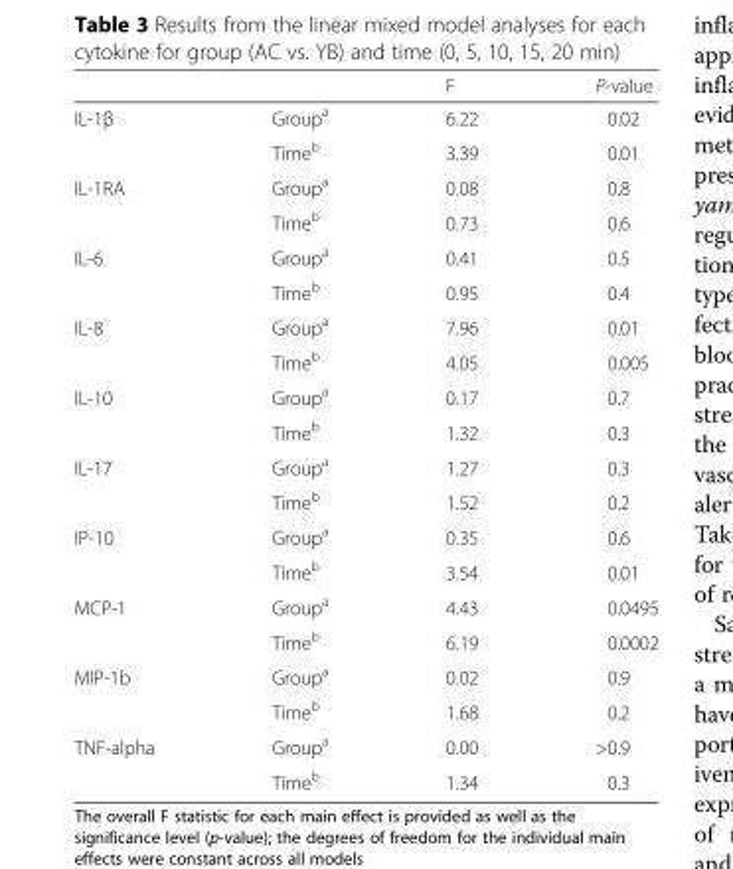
<table><thead><tr><td></td><td></td><td>F</td><td>P-value</td></tr></thead><tbody><tr><td rowspan="2">IL-1β</td><td>Group<sup>a</sup></td><td>6.22</td><td>0.02</td></tr><tr><td>Time<sup>b</sup></td><td>3.39</td><td>0.01</td></tr><tr><td rowspan="2">IL-1RA</td><td>Group<sup>a</sup></td><td>0.08</td><td>0.8</td></tr><tr><td>Time<sup>b</sup></td><td>0.73</td><td>0.6</td></tr><tr><td rowspan="2">IL-6</td><td>Group<sup>a</sup></td><td>0.41</td><td>0.5</td></tr><tr><td>Time<sup>b</sup></td><td>0.95</td><td>0.4</td></tr><tr><td rowspan="2">IL-8</td><td>Group<sup>a</sup></td><td>7.96</td><td>0.01</td></tr><tr><td>Time<sup>b</sup></td><td>4.05</td><td>0.005</td></tr><tr><td rowspan="2">IL-10</td><td>Group<sup>a</sup></td><td>0.17</td><td>0.7</td></tr><tr><td>Time<sup>b</sup></td><td>1.32</td><td>0.3</td></tr><tr><td rowspan="2">IL-17</td><td>Group<sup>a</sup></td><td>1.27</td><td>0.3</td></tr><tr><td>Time<sup>b</sup></td><td>1.52</td><td>0.2</td></tr><tr><td rowspan="2">IP-10</td><td>Group<sup>a</sup></td><td>0.35</td><td>0.6</td></tr><tr><td>Time<sup>b</sup></td><td>3.54</td><td>0.01</td></tr><tr><td rowspan="2">MCP-1</td><td>Group<sup>a</sup></td><td>4.43</td><td>0.0495</td></tr><tr><td>Time<sup>b</sup></td><td>6.19</td><td>0.0002</td></tr><tr><td rowspan="2">MIP-1b</td><td>Group<sup>a</sup></td><td>0.02</td><td>0.9</td></tr><tr><td>Time<sup>b</sup></td><td>1.68</td><td>0.2</td></tr><tr><td rowspan="2">TNF-alpha</td><td>Group<sup>a</sup></td><td>0.00</td><td>&gt;0.9</td></tr><tr><td>Time<sup>b</sup></td><td>1.34</td><td>0.3</td></tr></tbody></table>